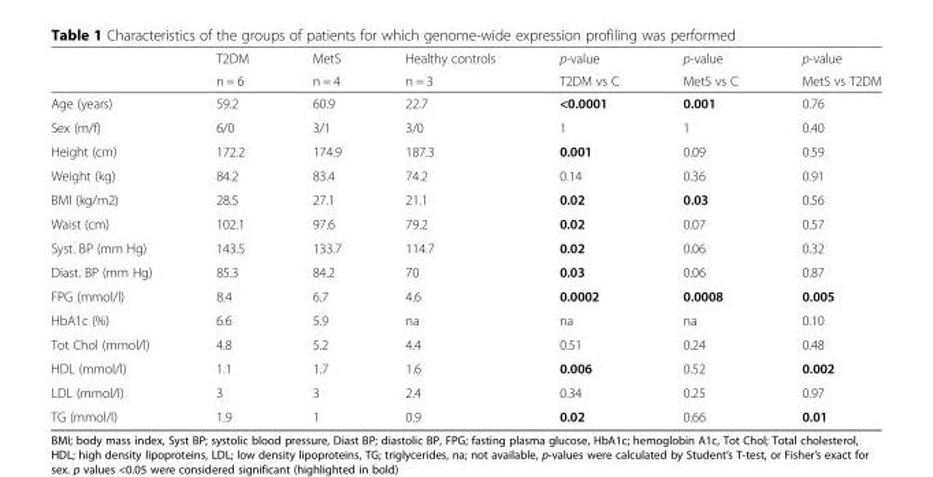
<table><thead><tr><td rowspan="2"></td><td rowspan="2">T2DM n = 6</td><td rowspan="2">MetS n = 4</td><td rowspan="2">Healthy controls n = 3</td><td rowspan="2">p-value T2DM vs C</td><td rowspan="2">p-value MetS vs C</td><td rowspan="2">p-value MetS vs T2DM</td></tr><tr></tr></thead><tbody><tr><td>Age (years)</td><td>59.2</td><td>60.9</td><td>22.7</td><td>&lt;0.0001</td><td>0.001</td><td>0.76</td></tr><tr><td>Sex (m/f)</td><td>6/0</td><td>3/1</td><td>3/0</td><td>1</td><td>1</td><td>0.40</td></tr><tr><td>Height (cm)</td><td>172.2</td><td>174.9</td><td>187.3</td><td>0.001</td><td>0.09</td><td>0.59</td></tr><tr><td>Weight (kg)</td><td>84.2</td><td>83.4</td><td>74.2</td><td>0.14</td><td>0.36</td><td>0.91</td></tr><tr><td>BMI (kg/m2)</td><td>28.5</td><td>27.1</td><td>21.1</td><td>0.02</td><td>0.03</td><td>0.56</td></tr><tr><td>Waist (cm)</td><td>102.1</td><td>97.6</td><td>79.2</td><td>0.02</td><td>0.07</td><td>0.57</td></tr><tr><td>Syst. BP (mm Hg)</td><td>143.5</td><td>133.7</td><td>114.7</td><td>0.02</td><td>0.06</td><td>0.32</td></tr><tr><td>Diast. BP (mm Hg)</td><td>85.3</td><td>84.2</td><td>70</td><td>0.03</td><td>0.06</td><td>0.87</td></tr><tr><td>FPG (mmol/l)</td><td>8.4</td><td>6.7</td><td>4.6</td><td>0.0002</td><td>0.0008</td><td>0.005</td></tr><tr><td>HbA1c (%)</td><td>6.6</td><td>5.9</td><td>na</td><td>na</td><td>na</td><td>0.10</td></tr><tr><td>Tot Chol (mmol/l)</td><td>4.8</td><td>5.2</td><td>4.4</td><td>0.51</td><td>0.24</td><td>0.48</td></tr><tr><td>HDL (mmol/l)</td><td>1.1</td><td>1.7</td><td>1.6</td><td>0.006</td><td>0.52</td><td>0.002</td></tr><tr><td>LDL (mmol/l)</td><td>3</td><td>3</td><td>2.4</td><td>0.34</td><td>0.25</td><td>0.97</td></tr><tr><td>TG (mmol/l)</td><td>1.9</td><td>1</td><td>0.9</td><td>0.02</td><td>0.66</td><td>0.01</td></tr></tbody></table>